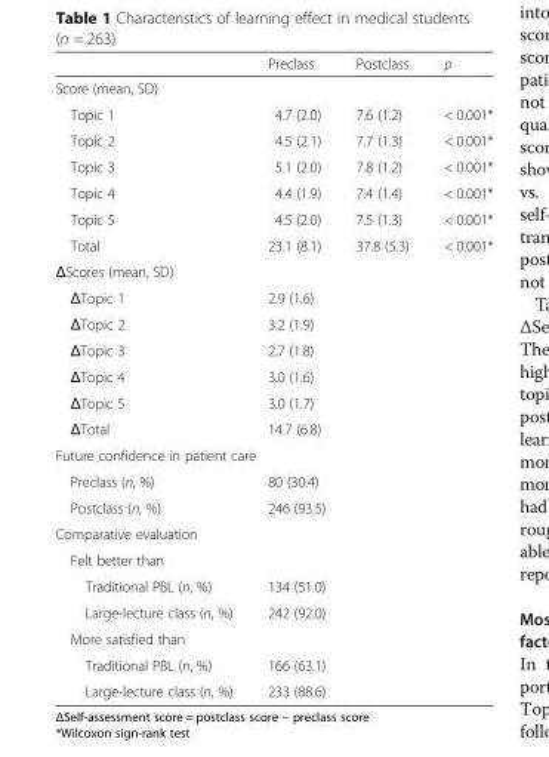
<table><thead><tr><td></td><td>Preclass</td><td>Postclass</td><td>p</td></tr></thead><tbody><tr><td colspan="4">Score (mean, SD)</td></tr><tr><td>Topic 1</td><td>4.7 (2.0)</td><td>7.6 (1.2)</td><td>&lt; 0.001*</td></tr><tr><td>Topic 2</td><td>4.5 (2.1)</td><td>7.7 (1.3)</td><td>&lt; 0.001*</td></tr><tr><td>Topic 3</td><td>5.1 (2.0)</td><td>7.8 (1.2)</td><td>&lt; 0.001*</td></tr><tr><td>Topic 4</td><td>4.4 (1.9)</td><td>7.4 (1.4)</td><td>&lt; 0.001*</td></tr><tr><td>Topic 5</td><td>4.5 (2.0)</td><td>7.5 (1.3)</td><td>&lt; 0.001*</td></tr><tr><td>Total</td><td>23.1 (8.1)</td><td>37.8 (5.3)</td><td>&lt; 0.001*</td></tr><tr><td colspan="4">ΔScores (mean, SD)</td></tr><tr><td>ΔTopic 1</td><td colspan="3">2.9 (1.6)</td></tr><tr><td>ΔTopic 2</td><td colspan="3">3.2 (1.9)</td></tr><tr><td>ΔTopic 3</td><td colspan="3">2.7 (1.8)</td></tr><tr><td>ΔTopic 4</td><td colspan="3">3.0 (1.6)</td></tr><tr><td>ΔTopic 5</td><td colspan="3">3.0 (1.7)</td></tr><tr><td>ΔTotal</td><td colspan="3">14.7 (6.8)</td></tr><tr><td colspan="4">Future confidence in patient care</td></tr><tr><td>Preclass (n, %)</td><td colspan="3">80 (30.4)</td></tr><tr><td>Postclass (n, %)</td><td colspan="3">246 (93.5)</td></tr><tr><td colspan="4">Comparative evaluation</td></tr><tr><td colspan="4">Felt better than</td></tr><tr><td>Traditional PBL (n, %)</td><td colspan="3">134 (51.0)</td></tr><tr><td>Large-lecture class (n, %)</td><td colspan="3">242 (92.0)</td></tr><tr><td colspan="4">More satisfied than</td></tr><tr><td>Traditional PBL (n, %)</td><td colspan="3">166 (63.1)</td></tr><tr><td>Large-lecture class (n, %)</td><td colspan="3">233 (88.6)</td></tr></tbody></table>